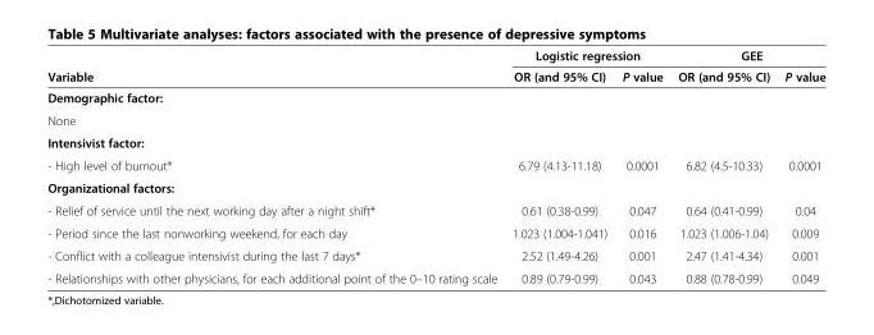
<table><thead><tr><td rowspan="2">Variable</td><td colspan="2">Logistic regression</td><td colspan="2">GEE</td></tr><tr><td>OR (and 95% CI)</td><td>P value</td><td>OR (and 95% CI)</td><td>P value</td></tr></thead><tbody><tr><td colspan="5">Demographic factor:</td></tr><tr><td colspan="5">None</td></tr><tr><td colspan="5">Intensivist factor:</td></tr><tr><td>- High level of burnout*</td><td>6.79 (4.13-11.18)</td><td>0.0001</td><td>6.82 (4.5-10.33)</td><td>0.0001</td></tr><tr><td colspan="5">Organizational factors:</td></tr><tr><td>- Relief of service until the next working day after a night shift*</td><td>0.61 (0.38-0.99)</td><td>0.047</td><td>0.64 (0.41-0.99)</td><td>0.04</td></tr><tr><td>- Period since the last nonworking weekend, for each day</td><td>1.023 (1.004-1.041)</td><td>0.016</td><td>1.023 (1.006-1.04)</td><td>0.009</td></tr><tr><td>- Conflict with a colleague intensivist during the last 7 days*</td><td>2.52 (1.49-4.26)</td><td>0.001</td><td>2.47 (1.41-4.34)</td><td>0.001</td></tr><tr><td>- Relationships with other physicians, for each additional point of the 0–10 rating scale</td><td>0.89 (0.79-0.99)</td><td>0.043</td><td>0.88 (0.78-0.99)</td><td>0.049</td></tr></tbody></table>